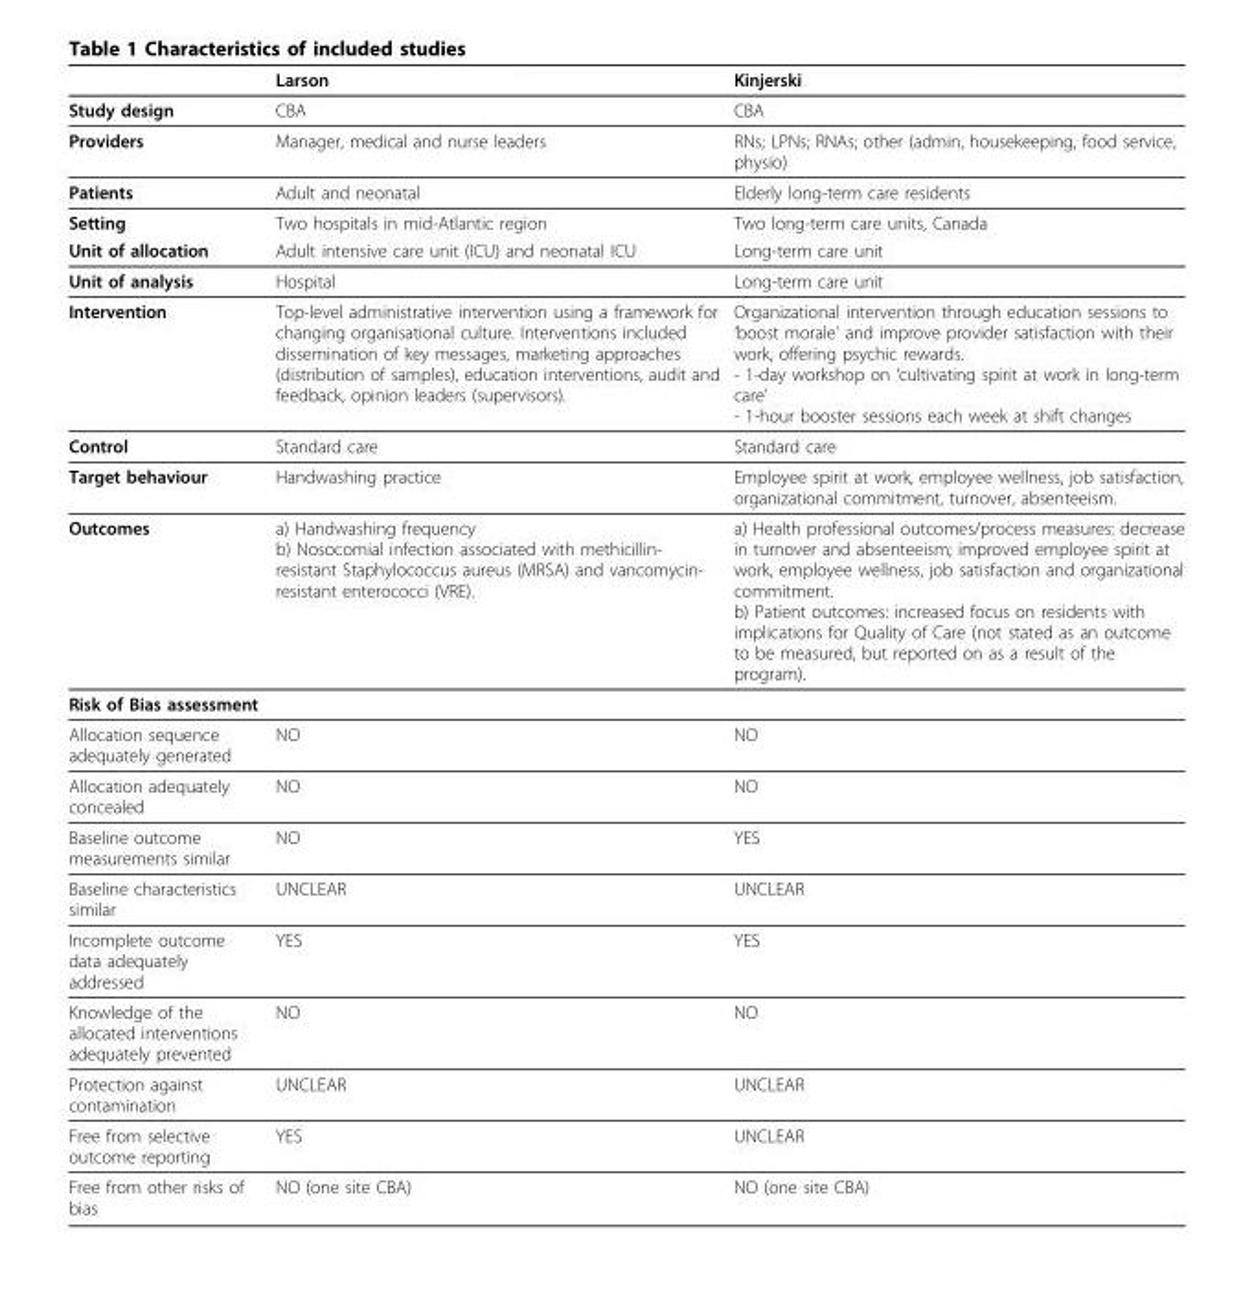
<table><thead><tr><td></td><td>Larson</td><td>Kinjerski</td></tr></thead><tbody><tr><td>Study design</td><td>CBA</td><td>CBA</td></tr><tr><td>Providers</td><td>Manager, medical and nurse leaders</td><td>RNs; LPNs; RNAs; other (admin, housekeeping, food service, physio)</td></tr><tr><td>Patients</td><td>Adult and neonatal</td><td>Elderly long-term care residents</td></tr><tr><td>Setting</td><td>Two hospitals in mid-Atlantic region</td><td>Two long-term care units, Canada</td></tr><tr><td>Unit of allocation</td><td>Adult intensive care unit (ICU) and neonatal ICU</td><td>Long-term care unit</td></tr><tr><td>Unit of analysis</td><td>Hospital</td><td>Long-term care unit</td></tr><tr><td>Intervention</td><td>Top-level administrative intervention using a framework for changing organisational culture. Interventions included dissemination of key messages, marketing approaches (distribution of samples), education interventions, audit and feedback, opinion leaders (supervisors).</td><td>Organizational intervention through education sessions to ‘boost morale’ and improve provider satisfaction with their work, offering psychic rewards. - 1-day workshop on ‘cultivating spirit at work in long-term care’ - 1-hour booster sessions each week at shift changes</td></tr><tr><td>Control</td><td>Standard care</td><td>Standard care</td></tr><tr><td>Target behaviour</td><td>Handwashing practice</td><td>Employee spirit at work, employee wellness, job satisfaction, organizational commitment, turnover, absenteeism.</td></tr><tr><td>Outcomes</td><td>a) Handwashing frequency b) Nosocomial infection associated with methicillin- resistant Staphylococcus aureus (MRSA) and vancomycin- resistant enterococci (VRE).</td><td>a) Health professional outcomes/process measures: decrease in turnover and absenteeism; improved employee spirit at work, employee wellness, job satisfaction and organizational commitment. b) Patient outcomes: increased focus on residents with implications for Quality of Care (not stated as an outcome to be measured, but reported on as a result of the program).</td></tr><tr><td colspan="3">Risk of Bias assessment</td></tr><tr><td>Allocation sequence adequately generated</td><td>NO</td><td>NO</td></tr><tr><td>Allocation adequately concealed</td><td>NO</td><td>NO</td></tr><tr><td>Baseline outcome measurements similar</td><td>NO</td><td>YES</td></tr><tr><td>Baseline characteristics similar</td><td>UNCLEAR</td><td>UNCLEAR</td></tr><tr><td>Incomplete outcome data adequately addressed</td><td>YES</td><td>YES</td></tr><tr><td>Knowledge of the allocated interventions adequately prevented</td><td>NO</td><td>NO</td></tr><tr><td>Protection against contamination</td><td>UNCLEAR</td><td>UNCLEAR</td></tr><tr><td>Free from selective outcome reporting</td><td>YES</td><td>UNCLEAR</td></tr><tr><td>Free from other risks of bias</td><td>NO (one site CBA)</td><td>NO (one site CBA)</td></tr></tbody></table>